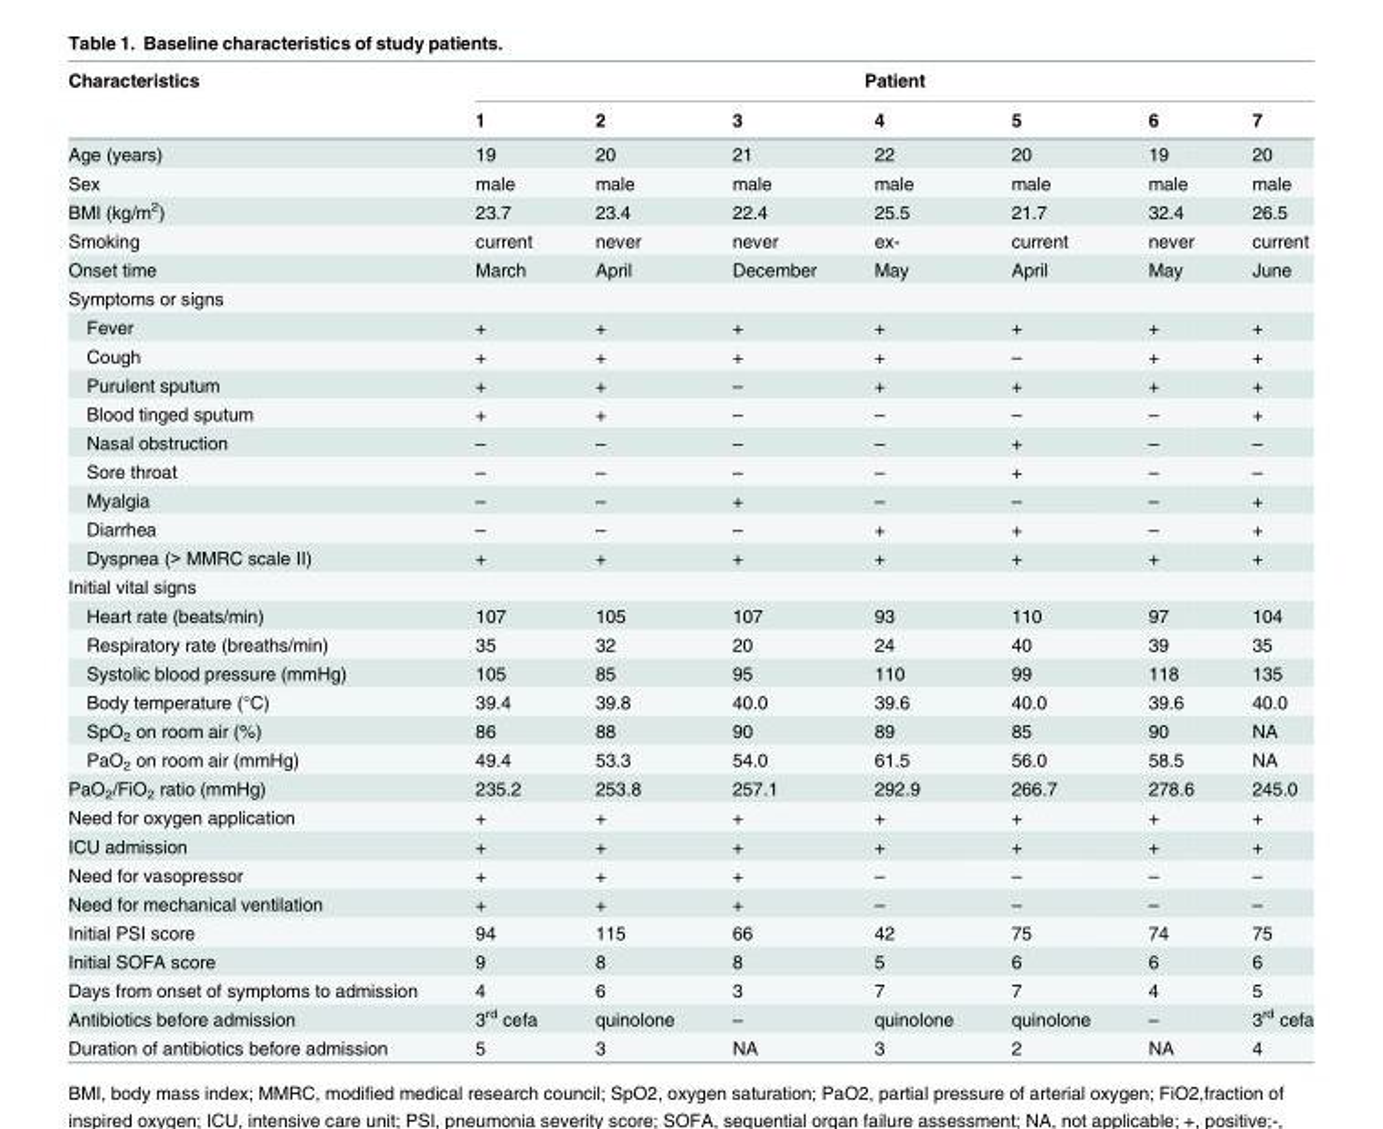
<table><thead><tr><td rowspan="2">Characteristics</td><td colspan="7">Patient</td></tr><tr><td>1</td><td>2</td><td>3</td><td>4</td><td>5</td><td>6</td><td>7</td></tr></thead><tbody><tr><td>Age (years)</td><td>19</td><td>20</td><td>21</td><td>22</td><td>20</td><td>19</td><td>20</td></tr><tr><td>Sex</td><td>male</td><td>male</td><td>male</td><td>male</td><td>male</td><td>male</td><td>male</td></tr><tr><td>BMI (kg/m<sup>2</sup>)</td><td>23.7</td><td>23.4</td><td>22.4</td><td>25.5</td><td>21.7</td><td>32.4</td><td>26.5</td></tr><tr><td>Smoking</td><td>current</td><td>never</td><td>never</td><td>ex-</td><td>current</td><td>never</td><td>current</td></tr><tr><td>Onset time</td><td>March</td><td>April</td><td>December</td><td>May</td><td>April</td><td>May</td><td>June</td></tr><tr><td colspan="8">Symptoms or signs</td></tr><tr><td>Fever</td><td>+</td><td>+</td><td>+</td><td>+</td><td>+</td><td>+</td><td>+</td></tr><tr><td>Cough</td><td>+</td><td>+</td><td>+</td><td>+</td><td>–</td><td>+</td><td>+</td></tr><tr><td>Purulent sputum</td><td>+</td><td>+</td><td>–</td><td>+</td><td>+</td><td>+</td><td>+</td></tr><tr><td>Blood tinged sputum</td><td>+</td><td>+</td><td>–</td><td>–</td><td>–</td><td>–</td><td>+</td></tr><tr><td>Nasal obstruction</td><td>–</td><td>–</td><td>–</td><td>–</td><td>+</td><td>–</td><td>–</td></tr><tr><td>Sore throat</td><td>–</td><td>–</td><td>–</td><td>–</td><td>+</td><td>–</td><td>–</td></tr><tr><td>Myalgia</td><td>–</td><td>–</td><td>+</td><td>–</td><td>–</td><td>–</td><td>+</td></tr><tr><td>Diarrhea</td><td>–</td><td>–</td><td>–</td><td>+</td><td>+</td><td>–</td><td>+</td></tr><tr><td>Dyspnea (&gt; MMRC scale II)</td><td>+</td><td>+</td><td>+</td><td>+</td><td>+</td><td>+</td><td>+</td></tr><tr><td colspan="8">Initial vital signs</td></tr><tr><td>Heart rate (beats/min)</td><td>107</td><td>105</td><td>107</td><td>93</td><td>110</td><td>97</td><td>104</td></tr><tr><td>Respiratory rate (breaths/min)</td><td>35</td><td>32</td><td>20</td><td>24</td><td>40</td><td>39</td><td>35</td></tr><tr><td>Systolic blood pressure (mmHg)</td><td>105</td><td>85</td><td>95</td><td>110</td><td>99</td><td>118</td><td>135</td></tr><tr><td>Body temperature (°C)</td><td>39.4</td><td>39.8</td><td>40.0</td><td>39.6</td><td>40.0</td><td>39.6</td><td>40.0</td></tr><tr><td>SpO<sub>2</sub> on room air (%)</td><td>86</td><td>88</td><td>90</td><td>89</td><td>85</td><td>90</td><td>NA</td></tr><tr><td>PaO<sub>2</sub> on room air (mmHg)</td><td>49.4</td><td>53.3</td><td>54.0</td><td>61.5</td><td>56.0</td><td>58.5</td><td>NA</td></tr><tr><td>PaO<sub>2</sub>/FiO<sub>2</sub> ratio (mmHg)</td><td>235.2</td><td>253.8</td><td>257.1</td><td>292.9</td><td>266.7</td><td>278.6</td><td>245.0</td></tr><tr><td>Need for oxygen application</td><td>+</td><td>+</td><td>+</td><td>+</td><td>+</td><td>+</td><td>+</td></tr><tr><td>ICU admission</td><td>+</td><td>+</td><td>+</td><td>+</td><td>+</td><td>+</td><td>+</td></tr><tr><td>Need for vasopressor</td><td>+</td><td>+</td><td>+</td><td>–</td><td>–</td><td>–</td><td>–</td></tr><tr><td>Need for mechanical ventilation</td><td>+</td><td>+</td><td>+</td><td>–</td><td>–</td><td>–</td><td>–</td></tr><tr><td>Initial PSI score</td><td>94</td><td>115</td><td>66</td><td>42</td><td>75</td><td>74</td><td>75</td></tr><tr><td>Initial SOFA score</td><td>9</td><td>8</td><td>8</td><td>5</td><td>6</td><td>6</td><td>6</td></tr><tr><td>Days from onset of symptoms to admission</td><td>4</td><td>6</td><td>3</td><td>7</td><td>7</td><td>4</td><td>5</td></tr><tr><td>Antibiotics before admission</td><td>3<sup>rd</sup> cefa</td><td>quinolone</td><td>–</td><td>quinolone</td><td>quinolone</td><td>–</td><td>3<sup>rd</sup> cefa</td></tr><tr><td>Duration of antibiotics before admission</td><td>5</td><td>3</td><td>NA</td><td>3</td><td>2</td><td>NA</td><td>4</td></tr></tbody></table>